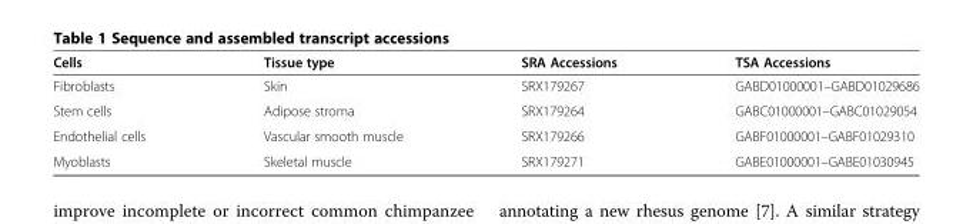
<table><thead><tr><td>Cells</td><td>Tissue type</td><td>SRA Accessions</td><td>TSA Accessions</td></tr></thead><tbody><tr><td>Fibroblasts</td><td>Skin</td><td>SRX179267</td><td>GABD01000001–GABD01029686</td></tr><tr><td>Stem cells</td><td>Adipose stroma</td><td>SRX179264</td><td>GABC01000001–GABC01029054</td></tr><tr><td>Endothelial cells</td><td>Vascular smooth muscle</td><td>SRX179266</td><td>GABF01000001–GABF01029310</td></tr><tr><td>Myoblasts</td><td>Skeletal muscle</td><td>SRX179271</td><td>GABE01000001–GABE01030945</td></tr></tbody></table>